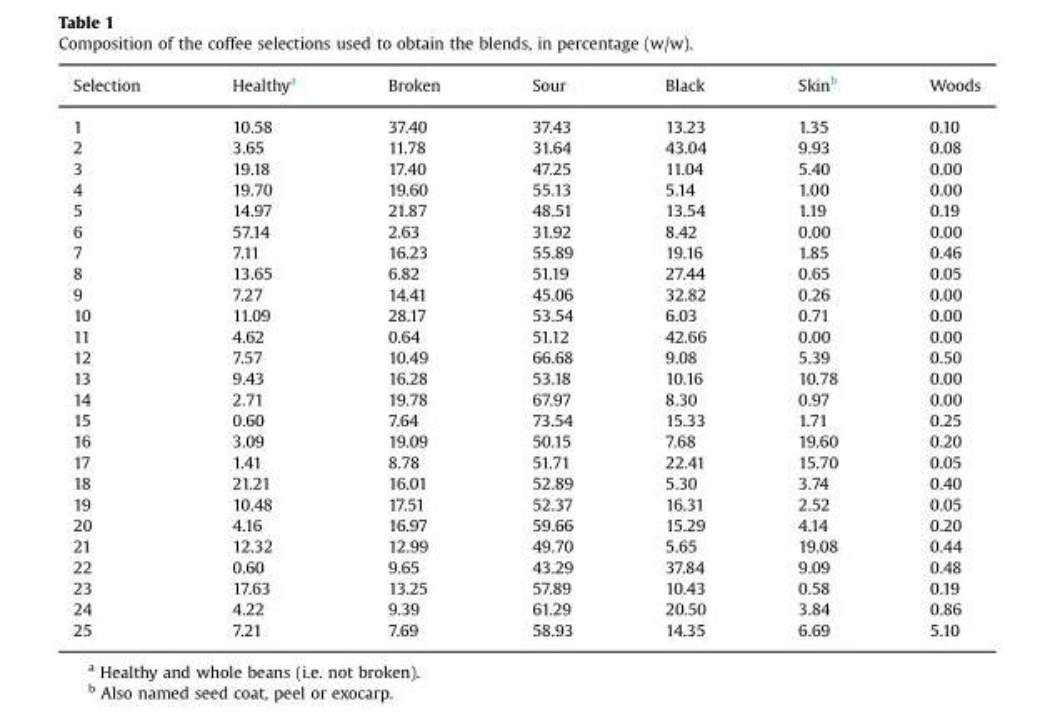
<table><thead><tr><td>Selection</td><td>Healthy<sup>a</sup></td><td>Broken</td><td>Sour</td><td>Black</td><td>Skin<sup>b</sup></td><td>Woods</td></tr></thead><tbody><tr><td>1</td><td>10.58</td><td>37.40</td><td>37.43</td><td>13.23</td><td>1.35</td><td>0.10</td></tr><tr><td>2</td><td>3.65</td><td>11.78</td><td>31.64</td><td>43.04</td><td>9.93</td><td>0.08</td></tr><tr><td>3</td><td>19.18</td><td>17.40</td><td>47.25</td><td>11.04</td><td>5.40</td><td>0.00</td></tr><tr><td>4</td><td>19.70</td><td>19.60</td><td>55.13</td><td>5.14</td><td>1.00</td><td>0.00</td></tr><tr><td>5</td><td>14.97</td><td>21.87</td><td>48.51</td><td>13.54</td><td>1.19</td><td>0.19</td></tr><tr><td>6</td><td>57.14</td><td>2.63</td><td>31.92</td><td>8.42</td><td>0.00</td><td>0.00</td></tr><tr><td>7</td><td>7.11</td><td>16.23</td><td>55.89</td><td>19.16</td><td>1.85</td><td>0.46</td></tr><tr><td>8</td><td>13.65</td><td>6.82</td><td>51.19</td><td>27.44</td><td>0.65</td><td>0.05</td></tr><tr><td>9</td><td>7.27</td><td>14.41</td><td>45.06</td><td>32.82</td><td>0.26</td><td>0.00</td></tr><tr><td>10</td><td>11.09</td><td>28.17</td><td>53.54</td><td>6.03</td><td>0.71</td><td>0.00</td></tr><tr><td>11</td><td>4.62</td><td>0.64</td><td>51.12</td><td>42.66</td><td>0.00</td><td>0.00</td></tr><tr><td>12</td><td>7.57</td><td>10.49</td><td>66.68</td><td>9.08</td><td>5.39</td><td>0.50</td></tr><tr><td>13</td><td>9.43</td><td>16.28</td><td>53.18</td><td>10.16</td><td>10.78</td><td>0.00</td></tr><tr><td>14</td><td>2.71</td><td>19.78</td><td>67.97</td><td>8.30</td><td>0.97</td><td>0.00</td></tr><tr><td>15</td><td>0.60</td><td>7.64</td><td>73.54</td><td>15.33</td><td>1.71</td><td>0.25</td></tr><tr><td>16</td><td>3.09</td><td>19.09</td><td>50.15</td><td>7.68</td><td>19.60</td><td>0.20</td></tr><tr><td>17</td><td>1.41</td><td>8.78</td><td>51.71</td><td>22.41</td><td>15.70</td><td>0.05</td></tr><tr><td>18</td><td>21.21</td><td>16.01</td><td>52.89</td><td>5.30</td><td>3.74</td><td>0.40</td></tr><tr><td>19</td><td>10.48</td><td>17.51</td><td>52.37</td><td>16.31</td><td>2.52</td><td>0.05</td></tr><tr><td>20</td><td>4.16</td><td>16.97</td><td>59.66</td><td>15.29</td><td>4.14</td><td>0.20</td></tr><tr><td>21</td><td>12.32</td><td>12.99</td><td>49.70</td><td>5.65</td><td>19.08</td><td>0.44</td></tr><tr><td>22</td><td>0.60</td><td>9.65</td><td>43.29</td><td>37.84</td><td>9.09</td><td>0.48</td></tr><tr><td>23</td><td>17.63</td><td>13.25</td><td>57.89</td><td>10.43</td><td>0.58</td><td>0.19</td></tr><tr><td>24</td><td>4.22</td><td>9.39</td><td>61.29</td><td>20.50</td><td>3.84</td><td>0.86</td></tr><tr><td>25</td><td>7.21</td><td>7.69</td><td>58.93</td><td>14.35</td><td>6.69</td><td>5.10</td></tr></tbody></table>